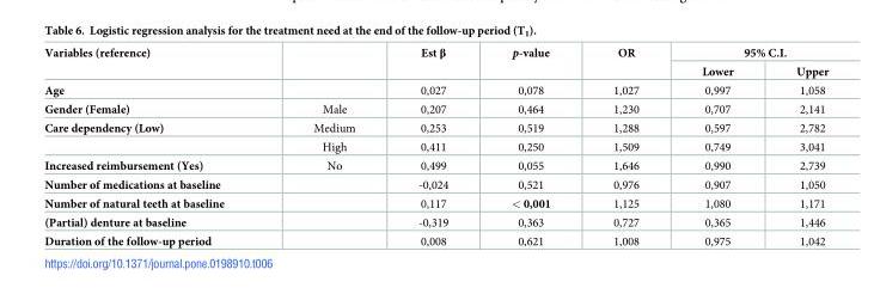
<table><thead><tr><td rowspan="2">Variables (reference)</td><td rowspan="2"></td><td rowspan="2">Est β</td><td rowspan="2">p-value</td><td rowspan="2">OR</td><td colspan="2">95% C.I.</td></tr><tr><td>Lower</td><td>Upper</td></tr></thead><tbody><tr><td>Age</td><td></td><td>0,027</td><td>0,078</td><td>1,027</td><td>0,997</td><td>1,058</td></tr><tr><td>Gender (Female)</td><td>Male</td><td>0,207</td><td>0,464</td><td>1,230</td><td>0,707</td><td>2,141</td></tr><tr><td rowspan="2">Care dependency (Low)</td><td>Medium</td><td>0,253</td><td>0,519</td><td>1,288</td><td>0,597</td><td>2,782</td></tr><tr><td>High</td><td>0,411</td><td>0,250</td><td>1,509</td><td>0,749</td><td>3,041</td></tr><tr><td>Increased reimbursement (Yes)</td><td>No</td><td>0,499</td><td>0,055</td><td>1,646</td><td>0,990</td><td>2,739</td></tr><tr><td>Number of medications at baseline</td><td></td><td>-0,024</td><td>0,521</td><td>0,976</td><td>0,907</td><td>1,050</td></tr><tr><td>Number of natural teeth at baseline</td><td></td><td>0,117</td><td>&lt; 0,001</td><td>1,125</td><td>1,080</td><td>1,171</td></tr><tr><td>(Partial) denture at baseline</td><td></td><td>-0,319</td><td>0,363</td><td>0,727</td><td>0,365</td><td>1,446</td></tr><tr><td>Duration of the follow-up period</td><td></td><td>0,008</td><td>0,621</td><td>1,008</td><td>0,975</td><td>1,042</td></tr></tbody></table>